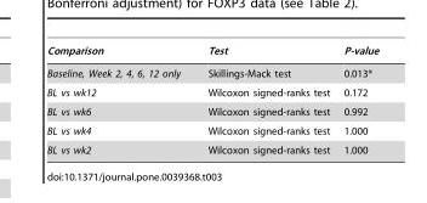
<table><thead><tr><td>Comparison</td><td>Test</td><td>P-value</td></tr></thead><tbody><tr><td>Baseline, Week 2, 4, 6, 12 only</td><td>Skillings-Mack test</td><td>0.013*</td></tr><tr><td>BL vs wk12</td><td>Wilcoxon signed-ranks test</td><td>0.172</td></tr><tr><td>BL vs wk6</td><td>Wilcoxon signed-ranks test</td><td>0.992</td></tr><tr><td>BL vs wk4</td><td>Wilcoxon signed-ranks test</td><td>1.000</td></tr><tr><td>BL vs wk2</td><td>Wilcoxon signed-ranks test</td><td>1.000</td></tr></tbody></table>